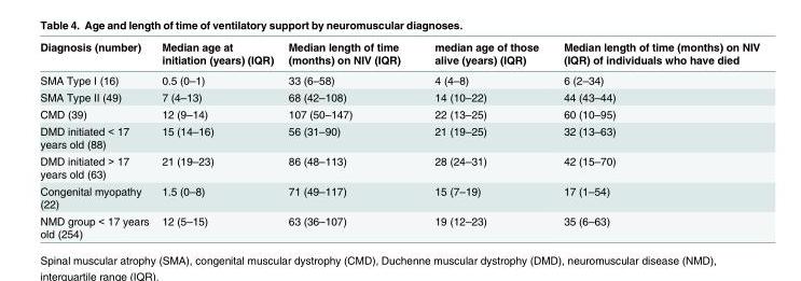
<table><thead><tr><td>Diagnosis (number)</td><td>Median age at initiation (years) (IQR)</td><td>Median length of time (months) on NIV (IQR)</td><td>median age of those alive (years) (IQR)</td><td>Median length of time (months) on NIV (IQR) of individuals who have died</td></tr></thead><tbody><tr><td>SMA Type I (16)</td><td>0.5 (0–1)</td><td>33 (6–58)</td><td>4 (4–8)</td><td>6 (2–34)</td></tr><tr><td>SMA Type II (49)</td><td>7 (4–13)</td><td>68 (42–108)</td><td>14 (10–22)</td><td>44 (43–44)</td></tr><tr><td>CMD (39)</td><td>12 (9–14)</td><td>107 (50–147)</td><td>22 (13–25)</td><td>60 (10–95)</td></tr><tr><td>DMD initiated &lt; 17 years old (88)</td><td>15 (14–16)</td><td>56 (31–90)</td><td>21 (19–25)</td><td>32 (13–63)</td></tr><tr><td>DMD initiated &gt; 17 years old (63)</td><td>21 (19–23)</td><td>86 (48–113)</td><td>28 (24–31)</td><td>42 (15–70)</td></tr><tr><td>Congenital myopathy (22)</td><td>1.5 (0–8)</td><td>71 (49–117)</td><td>15 (7–19)</td><td>17 (1–54)</td></tr><tr><td>NMD group &lt; 17 years old (254)</td><td>12 (5–15)</td><td>63 (36–107)</td><td>19 (12–23)</td><td>35 (6–63)</td></tr></tbody></table>